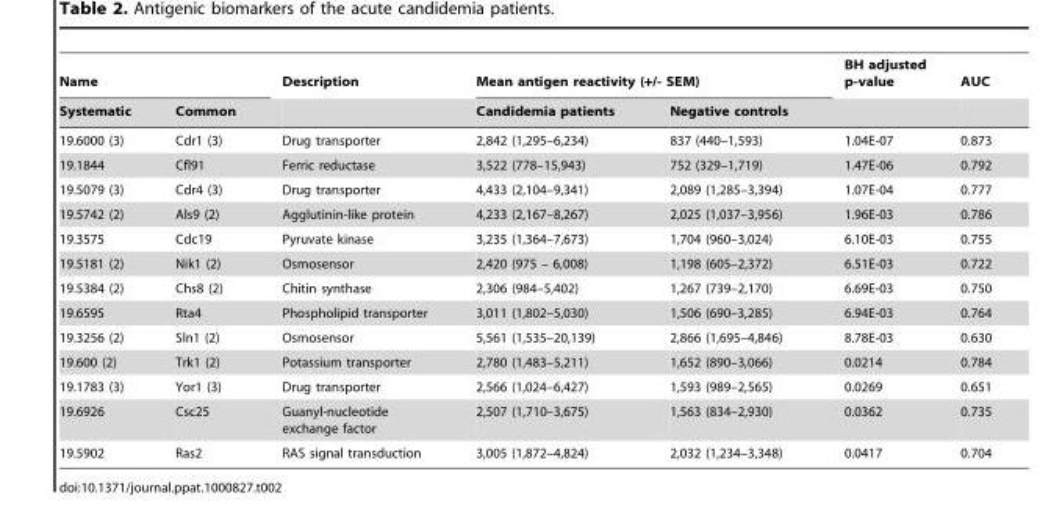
<table><thead><tr><td colspan="2">Name</td><td rowspan="2">Description</td><td colspan="2">Mean antigen reactivity (+/- SEM)</td><td rowspan="2">BH adjusted p-value</td><td rowspan="2">AUC</td></tr><tr><td>Systematic</td><td>Common</td><td>Candidemia patients</td><td>Negative controls</td></tr></thead><tbody><tr><td>19.6000 (3)</td><td>Cdr1 (3)</td><td>Drug transporter</td><td>2,842 (1,295–6,234)</td><td>837 (440–1,593)</td><td>1.04E-07</td><td>0.873</td></tr><tr><td>19.1844</td><td>Cfl91</td><td>Ferric reductase</td><td>3,522 (778–15,943)</td><td>752 (329–1,719)</td><td>1.47E-06</td><td>0.792</td></tr><tr><td>19.5079 (3)</td><td>Cdr4 (3)</td><td>Drug transporter</td><td>4,433 (2,104–9,341)</td><td>2,089 (1,285–3,394)</td><td>1.07E-04</td><td>0.777</td></tr><tr><td>19.5742 (2)</td><td>Als9 (2)</td><td>Agglutinin-like protein</td><td>4,233 (2,167–8,267)</td><td>2,025 (1,037–3,956)</td><td>1.96E-03</td><td>0.786</td></tr><tr><td>19.3575</td><td>Cdc19</td><td>Pyruvate kinase</td><td>3,235 (1,364–7,673)</td><td>1,704 (960–3,024)</td><td>6.10E-03</td><td>0.755</td></tr><tr><td>19.5181 (2)</td><td>Nik1 (2)</td><td>Osmosensor</td><td>2,420 (975 – 6,008)</td><td>1,198 (605–2,372)</td><td>6.51E-03</td><td>0.722</td></tr><tr><td>19.5384 (2)</td><td>Chs8 (2)</td><td>Chitin synthase</td><td>2,306 (984–5,402)</td><td>1,267 (739–2,170)</td><td>6.69E-03</td><td>0.750</td></tr><tr><td>19.6595</td><td>Rta4</td><td>Phospholipid transporter</td><td>3,011 (1,802–5,030)</td><td>1,506 (690–3,285)</td><td>6.94E-03</td><td>0.764</td></tr><tr><td>19.3256 (2)</td><td>Sln1 (2)</td><td>Osmosensor</td><td>5,561 (1,535–20,139)</td><td>2,866 (1,695–4,846)</td><td>8.78E-03</td><td>0.630</td></tr><tr><td>19.600 (2)</td><td>Trk1 (2)</td><td>Potassium transporter</td><td>2,780 (1,483–5,211)</td><td>1,652 (890–3,066)</td><td>0.0214</td><td>0.784</td></tr><tr><td>19.1783 (3)</td><td>Yor1 (3)</td><td>Drug transporter</td><td>2,566 (1,024–6,427)</td><td>1,593 (989–2,565)</td><td>0.0269</td><td>0.651</td></tr><tr><td>19.6926</td><td>Csc25</td><td>Guanyl-nucleotide exchange factor</td><td>2,507 (1,710–3,675)</td><td>1,563 (834–2,930)</td><td>0.0362</td><td>0.735</td></tr><tr><td>19.5902</td><td>Ras2</td><td>RAS signal transduction</td><td>3,005 (1,872–4,824)</td><td>2,032 (1,234–3,348)</td><td>0.0417</td><td>0.704</td></tr></tbody></table>